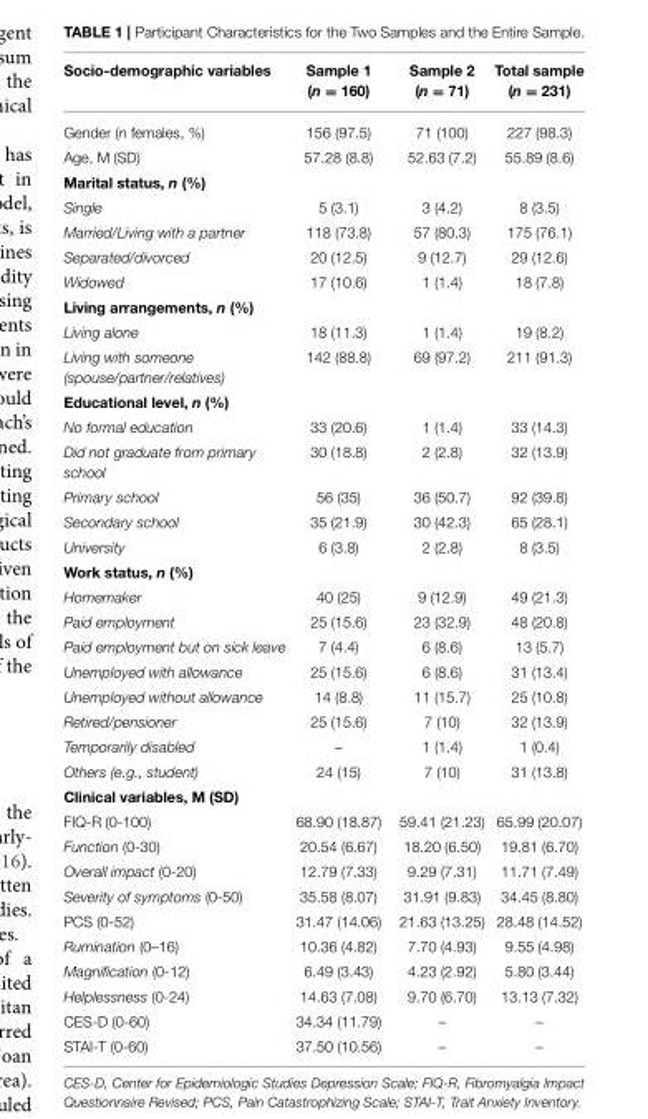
<table><thead><tr><td>Socio-demographic variables</td><td>Sample 1 (n = 160)</td><td>Sample 2 (n = 71)</td><td>Total sample (n = 231)</td></tr></thead><tbody><tr><td>Gender (n females, %)</td><td>156 (97.5)</td><td>71 (100)</td><td>227 (98.3)</td></tr><tr><td>Age, M (SD)</td><td>57.28 (8.8)</td><td>52.63 (7.2)</td><td>55.89 (8.6)</td></tr><tr><td colspan="4">Marital status, n (%)</td></tr><tr><td>Single</td><td>5 (3.1)</td><td>3 (4.2)</td><td>8 (3.5)</td></tr><tr><td>Married/Living with a partner</td><td>118 (73.8)</td><td>57 (80.3)</td><td>175 (76.1)</td></tr><tr><td>Separated/divorced</td><td>20 (12.5)</td><td>9 (12.7)</td><td>29 (12.6)</td></tr><tr><td>Widowed</td><td>17 (10.6)</td><td>1 (1.4)</td><td>18 (7.8)</td></tr><tr><td colspan="4">Living arrangements, n (%)</td></tr><tr><td>Living alone</td><td>18 (11.3)</td><td>1 (1.4)</td><td>19 (8.2)</td></tr><tr><td>Living with someone (spouse/partner/relatives)</td><td>142 (88.8)</td><td>69 (97.2)</td><td>211 (91.3)</td></tr><tr><td colspan="4">Educational level, n (%)</td></tr><tr><td>No formal education</td><td>33 (20.6)</td><td>1 (1.4)</td><td>33 (14.3)</td></tr><tr><td>Did not graduate from primary school</td><td>30 (18.8)</td><td>2 (2.8)</td><td>32 (13.9)</td></tr><tr><td>Primary school</td><td>56 (35)</td><td>36 (50.7)</td><td>92 (39.8)</td></tr><tr><td>Secondary school</td><td>35 (21.9)</td><td>30 (42.3)</td><td>65 (28.1)</td></tr><tr><td>University</td><td>6 (3.8)</td><td>2 (2.8)</td><td>8 (3.5)</td></tr><tr><td colspan="4">Work status, n (%)</td></tr><tr><td>Homemaker</td><td>40 (25)</td><td>9 (12.9)</td><td>49 (21.3)</td></tr><tr><td>Paid employment</td><td>25 (15.6)</td><td>23 (32.9)</td><td>48 (20.8)</td></tr><tr><td>Paid employment but on sick leave</td><td>7 (4.4)</td><td>6 (8.6)</td><td>13 (5.7)</td></tr><tr><td>Unemployed with allowance</td><td>25 (15.6)</td><td>6 (8.6)</td><td>31 (13.4)</td></tr><tr><td>Unemployed without allowance</td><td>14 (8.8)</td><td>11 (15.7)</td><td>25 (10.8)</td></tr><tr><td>Retired/pensioner</td><td>25 (15.6)</td><td>7 (10)</td><td>32 (13.9)</td></tr><tr><td>Temporarily disabled</td><td>–</td><td>1 (1.4)</td><td>1 (0.4)</td></tr><tr><td>Others (e.g., student)</td><td>24 (15)</td><td>7 (10)</td><td>31 (13.8)</td></tr><tr><td colspan="4">Clinical variables, M (SD)</td></tr><tr><td>FIQ-R (0-100)</td><td>68.90 (18.87)</td><td>59.41 (21.23)</td><td>65.99 (20.07)</td></tr><tr><td>Function (0-30)</td><td>20.54 (6.67)</td><td>18.20 (6.50)</td><td>19.81 (6.70)</td></tr><tr><td>Overall impact (0-20)</td><td>12.79 (7.33)</td><td>9.29 (7.31)</td><td>11.71 (7.49)</td></tr><tr><td>Severity of symptoms (0-50)</td><td>35.58 (8.07)</td><td>31.91 (9.83)</td><td>34.45 (8.80)</td></tr><tr><td>PCS (0-52)</td><td>31.47 (14.06)</td><td>21.63 (13.25)</td><td>28.48 (14.52)</td></tr><tr><td>Rumination (0–16)</td><td>10.36 (4.82)</td><td>7.70 (4.93)</td><td>9.55 (4.98)</td></tr><tr><td>Magnification (0-12)</td><td>6.49 (3.43)</td><td>4.23 (2.92)</td><td>5.80 (3.44)</td></tr><tr><td>Helplessness (0-24)</td><td>14.63 (7.08)</td><td>9.70 (6.70)</td><td>13.13 (7.32)</td></tr><tr><td>CES-D (0-60)</td><td>34.34 (11.79)</td><td>–</td><td>–</td></tr><tr><td>STAI-T (0-60)</td><td>37.50 (10.56)</td><td>–</td><td>–</td></tr></tbody></table>